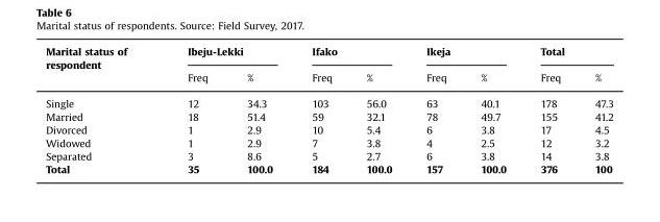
<table><thead><tr><td rowspan="2">Marital status of respondent</td><td colspan="2">Ibeju-Lekki</td><td colspan="2">Ifako</td><td colspan="2">Ikeja</td><td colspan="2">Total</td></tr><tr><td>Freq</td><td>%</td><td>Freq</td><td>%</td><td>Freq</td><td>%</td><td>Freq</td><td>%</td></tr></thead><tbody><tr><td>Single</td><td>12</td><td>34.3</td><td>103</td><td>56.0</td><td>63</td><td>40.1</td><td>178</td><td>47.3</td></tr><tr><td>Married</td><td>18</td><td>51.4</td><td>59</td><td>32.1</td><td>78</td><td>49.7</td><td>155</td><td>41.2</td></tr><tr><td>Divorced</td><td>1</td><td>2.9</td><td>10</td><td>5.4</td><td>6</td><td>3.8</td><td>17</td><td>4.5</td></tr><tr><td>Widowed</td><td>1</td><td>2.9</td><td>7</td><td>3.8</td><td>4</td><td>2.5</td><td>12</td><td>3.2</td></tr><tr><td>Separated</td><td>3</td><td>8.6</td><td>5</td><td>2.7</td><td>6</td><td>3.8</td><td>14</td><td>3.8</td></tr><tr><td>Total</td><td>35</td><td>100.0</td><td>184</td><td>100.0</td><td>157</td><td>100.0</td><td>376</td><td>100</td></tr></tbody></table>